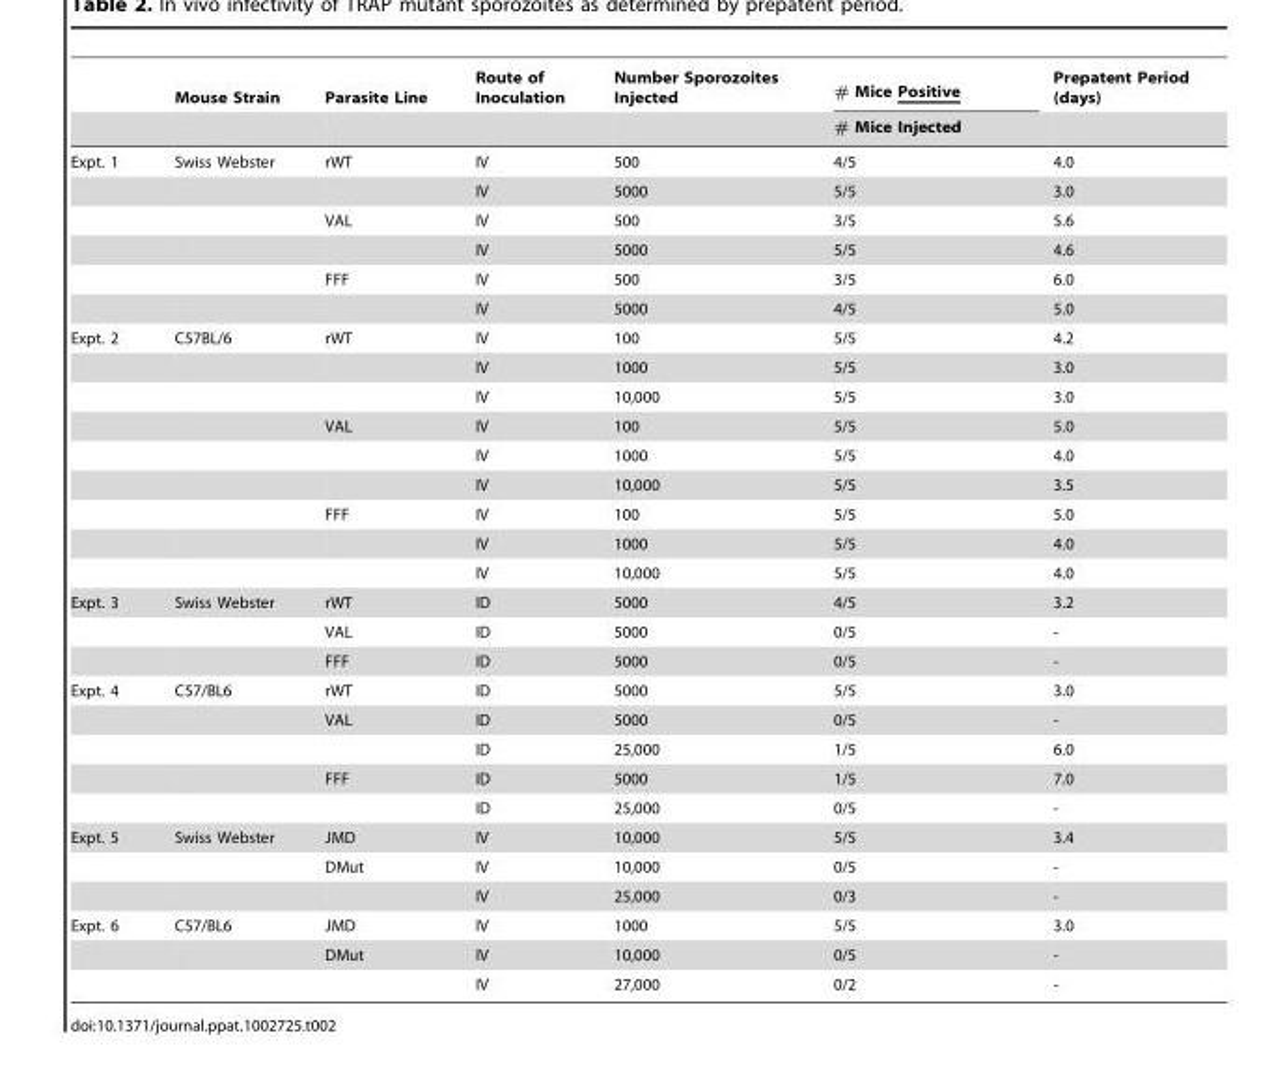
<table><thead><tr><td rowspan="2"></td><td rowspan="2">Mouse Strain</td><td rowspan="2">Parasite Line</td><td rowspan="2">Route of Inoculation</td><td rowspan="2">Number Sporozoites Injected</td><td rowspan="2"># Mice Positive # Mice Injected</td><td rowspan="2">Prepatent Period (days)</td></tr><tr></tr></thead><tbody><tr><td rowspan="6">Expt. 1</td><td>Swiss Webster</td><td>rWT</td><td>IV</td><td>500</td><td>4/5</td><td>4.0</td></tr><tr><td></td><td></td><td>IV</td><td>5000</td><td>5/5</td><td>3.0</td></tr><tr><td></td><td>VAL</td><td>IV</td><td>500</td><td>3/5</td><td>5.6</td></tr><tr><td></td><td></td><td>IV</td><td>5000</td><td>5/5</td><td>4.6</td></tr><tr><td></td><td>FFF</td><td>IV</td><td>500</td><td>3/5</td><td>6.0</td></tr><tr><td></td><td></td><td>IV</td><td>5000</td><td>4/5</td><td>5.0</td></tr><tr><td rowspan="9">Expt. 2</td><td>C57BL/6</td><td>rWT</td><td>IV</td><td>100</td><td>5/5</td><td>4.2</td></tr><tr><td></td><td></td><td>IV</td><td>1000</td><td>5/5</td><td>3.0</td></tr><tr><td></td><td></td><td>IV</td><td>10,000</td><td>5/5</td><td>3.0</td></tr><tr><td></td><td>VAL</td><td>IV</td><td>100</td><td>5/5</td><td>5.0</td></tr><tr><td></td><td></td><td>IV</td><td>1000</td><td>5/5</td><td>4.0</td></tr><tr><td></td><td></td><td>IV</td><td>10,000</td><td>5/5</td><td>3.5</td></tr><tr><td></td><td>FFF</td><td>IV</td><td>100</td><td>5/5</td><td>5.0</td></tr><tr><td></td><td></td><td>IV</td><td>1000</td><td>5/5</td><td>4.0</td></tr><tr><td></td><td></td><td>IV</td><td>10,000</td><td>5/5</td><td>4.0</td></tr><tr><td rowspan="3">Expt. 3</td><td>Swiss Webster</td><td>rWT</td><td>ID</td><td>5000</td><td>4/5</td><td>3.2</td></tr><tr><td></td><td>VAL</td><td>ID</td><td>5000</td><td>0/5</td><td>-</td></tr><tr><td></td><td>FFF</td><td>ID</td><td>5000</td><td>0/5</td><td>-</td></tr><tr><td rowspan="5">Expt. 4</td><td>C57/BL6</td><td>rWT</td><td>ID</td><td>5000</td><td>5/5</td><td>3.0</td></tr><tr><td></td><td>VAL</td><td>ID</td><td>5000</td><td>0/5</td><td>-</td></tr><tr><td></td><td></td><td>ID</td><td>25,000</td><td>1/5</td><td>6.0</td></tr><tr><td></td><td>FFF</td><td>ID</td><td>5000</td><td>1/5</td><td>7.0</td></tr><tr><td></td><td></td><td>ID</td><td>25,000</td><td>0/5</td><td>-</td></tr><tr><td rowspan="3">Expt. 5</td><td>Swiss Webster</td><td>JMD</td><td>IV</td><td>10,000</td><td>5/5</td><td>3.4</td></tr><tr><td></td><td>DMut</td><td>IV</td><td>10,000</td><td>0/5</td><td>-</td></tr><tr><td></td><td></td><td>IV</td><td>25,000</td><td>0/3</td><td>-</td></tr><tr><td rowspan="3">Expt. 6</td><td>C57/BL6</td><td>JMD</td><td>IV</td><td>1000</td><td>5/5</td><td>3.0</td></tr><tr><td></td><td>DMut</td><td>IV</td><td>10,000</td><td>0/5</td><td>-</td></tr><tr><td></td><td></td><td>IV</td><td>27,000</td><td>0/2</td><td>-</td></tr></tbody></table>